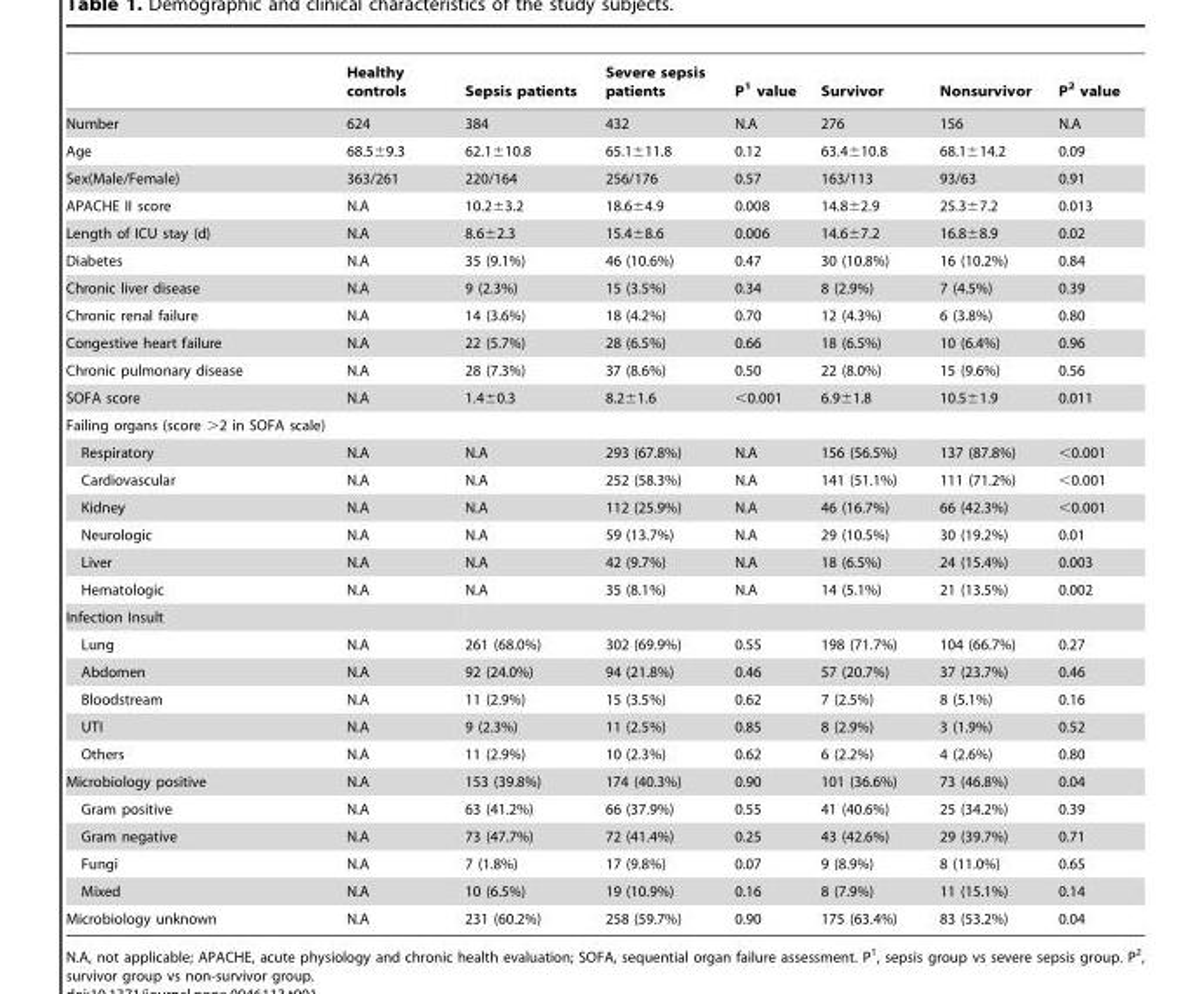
<table><thead><tr><td></td><td>Healthy controls</td><td>Sepsis patients</td><td>Severe sepsis patients</td><td>P<sup>1</sup> value</td><td>Survivor</td><td>Nonsurvivor</td><td>P<sup>2</sup> value</td></tr></thead><tbody><tr><td>Number</td><td>624</td><td>384</td><td>432</td><td>N.A</td><td>276</td><td>156</td><td>N.A</td></tr><tr><td>Age</td><td>68.5±9.3</td><td>62.1±10.8</td><td>65.1±11.8</td><td>0.12</td><td>63.4±10.8</td><td>68.1±14.2</td><td>0.09</td></tr><tr><td>Sex(Male/Female)</td><td>363/261</td><td>220/164</td><td>256/176</td><td>0.57</td><td>163/113</td><td>93/63</td><td>0.91</td></tr><tr><td>APACHE II score</td><td>N.A</td><td>10.2±3.2</td><td>18.6±4.9</td><td>0.008</td><td>14.8±2.9</td><td>25.3±7.2</td><td>0.013</td></tr><tr><td>Length of ICU stay (d)</td><td>N.A</td><td>8.6±2.3</td><td>15.4±8.6</td><td>0.006</td><td>14.6±7.2</td><td>16.8±8.9</td><td>0.02</td></tr><tr><td>Diabetes</td><td>N.A</td><td>35 (9.1%)</td><td>46 (10.6%)</td><td>0.47</td><td>30 (10.8%)</td><td>16 (10.2%)</td><td>0.84</td></tr><tr><td>Chronic liver disease</td><td>N.A</td><td>9 (2.3%)</td><td>15 (3.5%)</td><td>0.34</td><td>8 (2.9%)</td><td>7 (4.5%)</td><td>0.39</td></tr><tr><td>Chronic renal failure</td><td>N.A</td><td>14 (3.6%)</td><td>18 (4.2%)</td><td>0.70</td><td>12 (4.3%)</td><td>6 (3.8%)</td><td>0.80</td></tr><tr><td>Congestive heart failure</td><td>N.A</td><td>22 (5.7%)</td><td>28 (6.5%)</td><td>0.66</td><td>18 (6.5%)</td><td>10 (6.4%)</td><td>0.96</td></tr><tr><td>Chronic pulmonary disease</td><td>N.A</td><td>28 (7.3%)</td><td>37 (8.6%)</td><td>0.50</td><td>22 (8.0%)</td><td>15 (9.6%)</td><td>0.56</td></tr><tr><td>SOFA score</td><td>N.A</td><td>1.4±0.3</td><td>8.2±1.6</td><td>&lt;0.001</td><td>6.9±1.8</td><td>10.5±1.9</td><td>0.011</td></tr><tr><td colspan="8">Failing organs (score &gt;2 in SOFA scale)</td></tr><tr><td>Respiratory</td><td>N.A</td><td>N.A</td><td>293 (67.8%)</td><td>N.A</td><td>156 (56.5%)</td><td>137 (87.8%)</td><td>&lt;0.001</td></tr><tr><td>Cardiovascular</td><td>N.A</td><td>N.A</td><td>252 (58.3%)</td><td>N.A</td><td>141 (51.1%)</td><td>111 (71.2%)</td><td>&lt;0.001</td></tr><tr><td>Kidney</td><td>N.A</td><td>N.A</td><td>112 (25.9%)</td><td>N.A</td><td>46 (16.7%)</td><td>66 (42.3%)</td><td>&lt;0.001</td></tr><tr><td>Neurologic</td><td>N.A</td><td>N.A</td><td>59 (13.7%)</td><td>N.A</td><td>29 (10.5%)</td><td>30 (19.2%)</td><td>0.01</td></tr><tr><td>Liver</td><td>N.A</td><td>N.A</td><td>42 (9.7%)</td><td>N.A</td><td>18 (6.5%)</td><td>24 (15.4%)</td><td>0.003</td></tr><tr><td>Hematologic</td><td>N.A</td><td>N.A</td><td>35 (8.1%)</td><td>N.A</td><td>14 (5.1%)</td><td>21 (13.5%)</td><td>0.002</td></tr><tr><td colspan="8">Infection Insult</td></tr><tr><td>Lung</td><td>N.A</td><td>261 (68.0%)</td><td>302 (69.9%)</td><td>0.55</td><td>198 (71.7%)</td><td>104 (66.7%)</td><td>0.27</td></tr><tr><td>Abdomen</td><td>N.A</td><td>92 (24.0%)</td><td>94 (21.8%)</td><td>0.46</td><td>57 (20.7%)</td><td>37 (23.7%)</td><td>0.46</td></tr><tr><td>Bloodstream</td><td>N.A</td><td>11 (2.9%)</td><td>15 (3.5%)</td><td>0.62</td><td>7 (2.5%)</td><td>8 (5.1%)</td><td>0.16</td></tr><tr><td>UTI</td><td>N.A</td><td>9 (2.3%)</td><td>11 (2.5%)</td><td>0.85</td><td>8 (2.9%)</td><td>3 (1.9%)</td><td>0.52</td></tr><tr><td>Others</td><td>N.A</td><td>11 (2.9%)</td><td>10 (2.3%)</td><td>0.62</td><td>6 (2.2%)</td><td>4 (2.6%)</td><td>0.80</td></tr><tr><td>Microbiology positive</td><td>N.A</td><td>153 (39.8%)</td><td>174 (40.3%)</td><td>0.90</td><td>101 (36.6%)</td><td>73 (46.8%)</td><td>0.04</td></tr><tr><td>Gram positive</td><td>N.A</td><td>63 (41.2%)</td><td>66 (37.9%)</td><td>0.55</td><td>41 (40.6%)</td><td>25 (34.2%)</td><td>0.39</td></tr><tr><td>Gram negative</td><td>N.A</td><td>73 (47.7%)</td><td>72 (41.4%)</td><td>0.25</td><td>43 (42.6%)</td><td>29 (39.7%)</td><td>0.71</td></tr><tr><td>Fungi</td><td>N.A</td><td>7 (1.8%)</td><td>17 (9.8%)</td><td>0.07</td><td>9 (8.9%)</td><td>8 (11.0%)</td><td>0.65</td></tr><tr><td>Mixed</td><td>N.A</td><td>10 (6.5%)</td><td>19 (10.9%)</td><td>0.16</td><td>8 (7.9%)</td><td>11 (15.1%)</td><td>0.14</td></tr><tr><td>Microbiology unknown</td><td>N.A</td><td>231 (60.2%)</td><td>258 (59.7%)</td><td>0.90</td><td>175 (63.4%)</td><td>83 (53.2%)</td><td>0.04</td></tr></tbody></table>